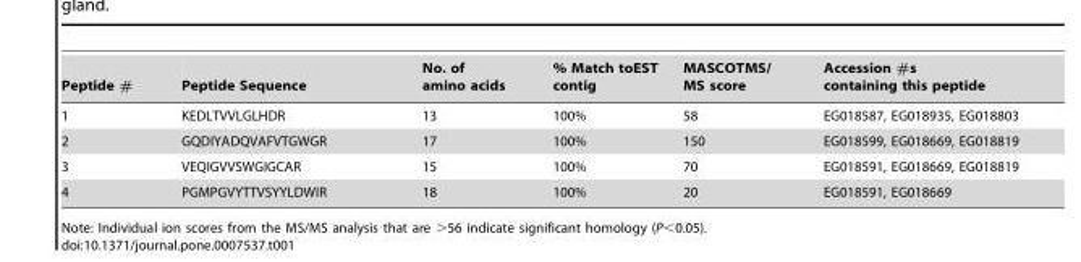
<table><thead><tr><td>Peptide #</td><td>Peptide Sequence</td><td>No. of amino acids</td><td>% Match toEST contig</td><td>MASCOTMS/ MS score</td><td>Accession #s containing this peptide</td></tr></thead><tbody><tr><td>1</td><td>KEDLTVVLGLHDR</td><td>13</td><td>100%</td><td>58</td><td>EG018587, EG018935, EG018803</td></tr><tr><td>2</td><td>GQDIYADQVAFVTGWGR</td><td>17</td><td>100%</td><td>150</td><td>EG018599, EG018669, EG018819</td></tr><tr><td>3</td><td>VEQIGVVSWGIGCAR</td><td>15</td><td>100%</td><td>70</td><td>EG018591, EG018669, EG018819</td></tr><tr><td>4</td><td>PGMPGVYTTVSYYLDWIR</td><td>18</td><td>100%</td><td>20</td><td>EG018591, EG018669</td></tr></tbody></table>